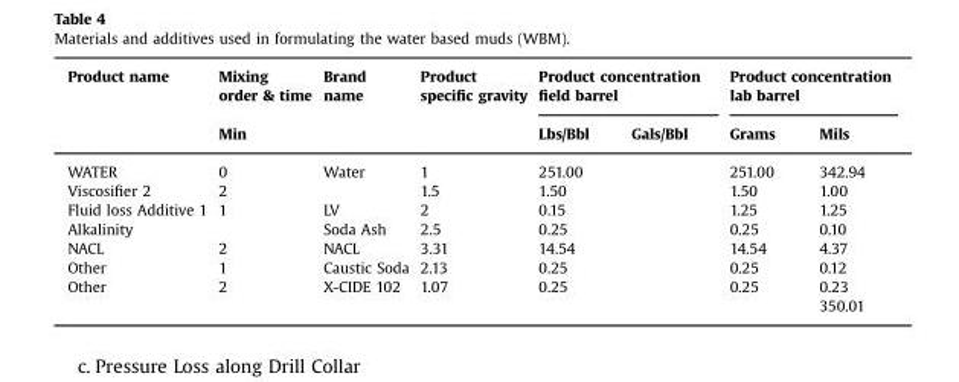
<table><thead><tr><td rowspan="2">Product name</td><td rowspan="2">Mixing order &amp; time Min</td><td rowspan="2">Brand name</td><td rowspan="2">Product specific gravity</td><td colspan="2">Product concentration field barrel</td><td colspan="2">Product concentration lab barrel</td></tr><tr><td>Lbs/Bbl</td><td>Gals/Bbl</td><td>Grams</td><td>Mils</td></tr></thead><tbody><tr><td>WATER</td><td>0</td><td>Water</td><td>1</td><td>251.00</td><td></td><td>251.00</td><td>342.94</td></tr><tr><td>Viscosifier 2</td><td>2</td><td></td><td>1.5</td><td>1.50</td><td></td><td>1.50</td><td>1.00</td></tr><tr><td>Fluid loss Additive 1</td><td>1</td><td>LV</td><td>2</td><td>0.15</td><td></td><td>1.25</td><td>1.25</td></tr><tr><td>Alkalinity</td><td></td><td>Soda Ash</td><td>2.5</td><td>0.25</td><td></td><td>0.25</td><td>0.10</td></tr><tr><td>NACL</td><td>2</td><td>NACL</td><td>3.31</td><td>14.54</td><td></td><td>14.54</td><td>4.37</td></tr><tr><td>Other</td><td>1</td><td>Caustic Soda</td><td>2.13</td><td>0.25</td><td></td><td>0.25</td><td>0.12</td></tr><tr><td rowspan="2">Other</td><td>2</td><td>X-CIDE 102</td><td>1.07</td><td>0.25</td><td></td><td>0.25</td><td>0.23</td></tr><tr><td></td><td></td><td></td><td></td><td></td><td></td><td>350.01</td></tr></tbody></table>